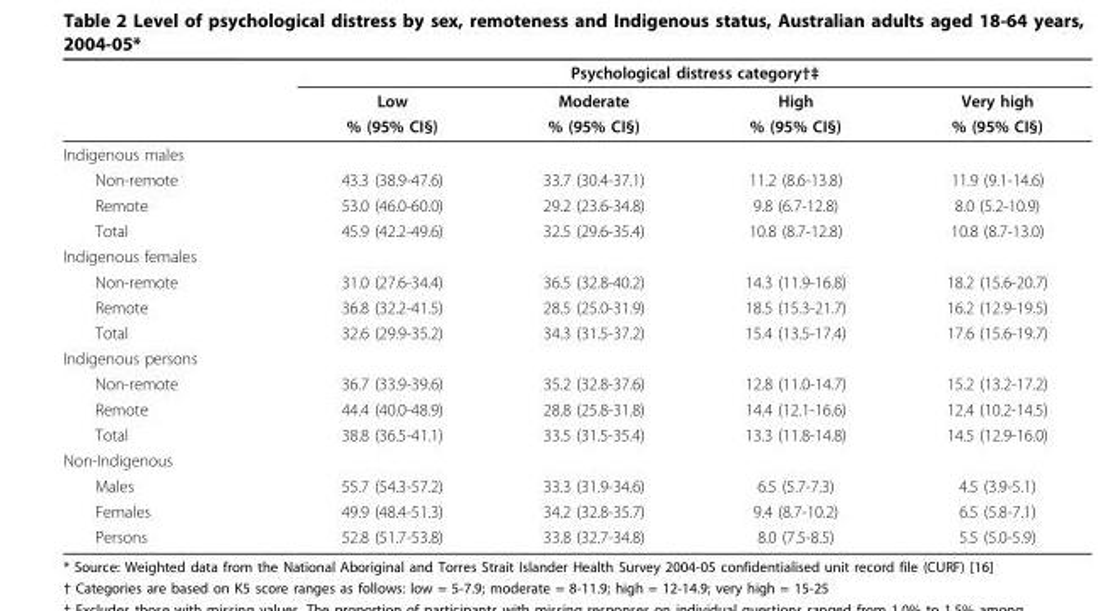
<table><thead><tr><td rowspan="3"></td><td colspan="4">Psychological distress category†‡</td></tr><tr><td rowspan="2">Low % (95% CI§)</td><td rowspan="2">Moderate % (95% CI§)</td><td rowspan="2">High % (95% CI§)</td><td rowspan="2">Very high % (95% CI§)</td></tr><tr></tr></thead><tbody><tr><td colspan="5">Indigenous males</td></tr><tr><td>Non-remote</td><td>43.3 (38.9-47.6)</td><td>33.7 (30.4-37.1)</td><td>11.2 (8.6-13.8)</td><td>11.9 (9.1-14.6)</td></tr><tr><td>Remote</td><td>53.0 (46.0-60.0)</td><td>29.2 (23.6-34.8)</td><td>9.8 (6.7-12.8)</td><td>8.0 (5.2-10.9)</td></tr><tr><td>Total</td><td>45.9 (42.2-49.6)</td><td>32.5 (29.6-35.4)</td><td>10.8 (8.7-12.8)</td><td>10.8 (8.7-13.0)</td></tr><tr><td colspan="5">Indigenous females</td></tr><tr><td>Non-remote</td><td>31.0 (27.6-34.4)</td><td>36.5 (32.8-40.2)</td><td>14.3 (11.9-16.8)</td><td>18.2 (15.6-20.7)</td></tr><tr><td>Remote</td><td>36.8 (32.2-41.5)</td><td>28.5 (25.0-31.9)</td><td>18.5 (15.3-21.7)</td><td>16.2 (12.9-19.5)</td></tr><tr><td>Total</td><td>32.6 (29.9-35.2)</td><td>34.3 (31.5-37.2)</td><td>15.4 (13.5-17.4)</td><td>17.6 (15.6-19.7)</td></tr><tr><td colspan="5">Indigenous persons</td></tr><tr><td>Non-remote</td><td>36.7 (33.9-39.6)</td><td>35.2 (32.8-37.6)</td><td>12.8 (11.0-14.7)</td><td>15.2 (13.2-17.2)</td></tr><tr><td>Remote</td><td>44.4 (40.0-48.9)</td><td>28.8 (25.8-31.8)</td><td>14.4 (12.1-16.6)</td><td>12.4 (10.2-14.5)</td></tr><tr><td>Total</td><td>38.8 (36.5-41.1)</td><td>33.5 (31.5-35.4)</td><td>13.3 (11.8-14.8)</td><td>14.5 (12.9-16.0)</td></tr><tr><td colspan="5">Non-Indigenous</td></tr><tr><td>Males</td><td>55.7 (54.3-57.2)</td><td>33.3 (31.9-34.6)</td><td>6.5 (5.7-7.3)</td><td>4.5 (3.9-5.1)</td></tr><tr><td>Females</td><td>49.9 (48.4-51.3)</td><td>34.2 (32.8-35.7)</td><td>9.4 (8.7-10.2)</td><td>6.5 (5.8-7.1)</td></tr><tr><td>Persons</td><td>52.8 (51.7-53.8)</td><td>33.8 (32.7-34.8)</td><td>8.0 (7.5-8.5)</td><td>5.5 (5.0-5.9)</td></tr></tbody></table>